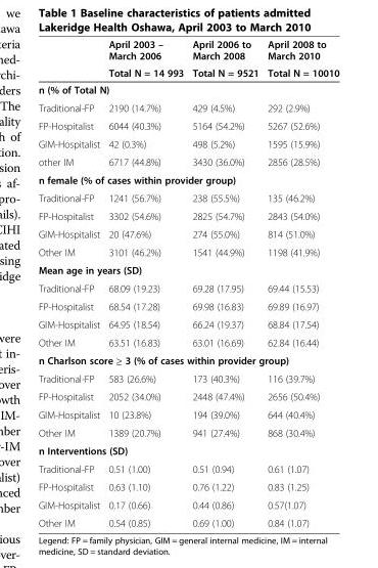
<table><thead><tr><td rowspan="2"></td><td rowspan="2">April 2003 – March 2006 Total N = 14 993</td><td rowspan="2">April 2006 to March 2008 Total N = 9521</td><td rowspan="2">April 2008 to March 2010 Total N = 10010</td></tr><tr></tr></thead><tbody><tr><td colspan="4">n (% of Total N)</td></tr><tr><td>Traditional-FP</td><td>2190 (14.7%)</td><td>429 (4.5%)</td><td>292 (2.9%)</td></tr><tr><td>FP-Hospitalist</td><td>6044 (40.3%)</td><td>5164 (54.2%)</td><td>5267 (52.6%)</td></tr><tr><td>GIM-Hospitalist</td><td>42 (0.3%)</td><td>498 (5.2%)</td><td>1595 (15.9%)</td></tr><tr><td>other IM</td><td>6717 (44.8%)</td><td>3430 (36.0%)</td><td>2856 (28.5%)</td></tr><tr><td colspan="4">n female (% of cases within provider group)</td></tr><tr><td>Traditional-FP</td><td>1241 (56.7%)</td><td>238 (55.5%)</td><td>135 (46.2%)</td></tr><tr><td>FP-Hospitalist</td><td>3302 (54.6%)</td><td>2825 (54.7%)</td><td>2843 (54.0%)</td></tr><tr><td>GIM-Hospitalist</td><td>20 (47.6%)</td><td>274 (55.0%)</td><td>814 (51.0%)</td></tr><tr><td>Other IM</td><td>3101 (46.2%)</td><td>1541 (44.9%)</td><td>1198 (41.9%)</td></tr><tr><td colspan="4">Mean age in years (SD)</td></tr><tr><td>Traditional-FP</td><td>68.09 (19.23)</td><td>69.28 (17.95)</td><td>69.44 (15.53)</td></tr><tr><td>FP-Hospitalist</td><td>68.54 (17.28)</td><td>69.98 (16.83)</td><td>69.89 (16.97)</td></tr><tr><td>GIM-Hospitalist</td><td>64.95 (18.54)</td><td>66.24 (19.37)</td><td>68.84 (17.54)</td></tr><tr><td>Other IM</td><td>63.51 (16.83)</td><td>63.01 (16.69)</td><td>62.84 (16.44)</td></tr><tr><td colspan="4">n Charlson score ≥ 3 (% of cases within provider group)</td></tr><tr><td>Traditional-FP</td><td>583 (26.6%)</td><td>173 (40.3%)</td><td>116 (39.7%)</td></tr><tr><td>FP-Hospitalist</td><td>2052 (34.0%)</td><td>2448 (47.4%)</td><td>2656 (50.4%)</td></tr><tr><td>GIM-Hospitalist</td><td>10 (23.8%)</td><td>194 (39.0%)</td><td>644 (40.4%)</td></tr><tr><td>Other IM</td><td>1389 (20.7%)</td><td>941 (27.4%)</td><td>868 (30.4%)</td></tr><tr><td colspan="4">n Interventions (SD)</td></tr><tr><td>Traditional-FP</td><td>0.51 (1.00)</td><td>0.51 (0.94)</td><td>0.61 (1.07)</td></tr><tr><td>FP-Hospitalist</td><td>0.63 (1.10)</td><td>0.76 (1.22)</td><td>0.83 (1.25)</td></tr><tr><td>GIM-Hospitalist</td><td>0.17 (0.66)</td><td>0.44 (0.86)</td><td>0.57(1.07)</td></tr><tr><td>Other IM</td><td>0.54 (0.85)</td><td>0.69 (1.00)</td><td>0.84 (1.07)</td></tr></tbody></table>